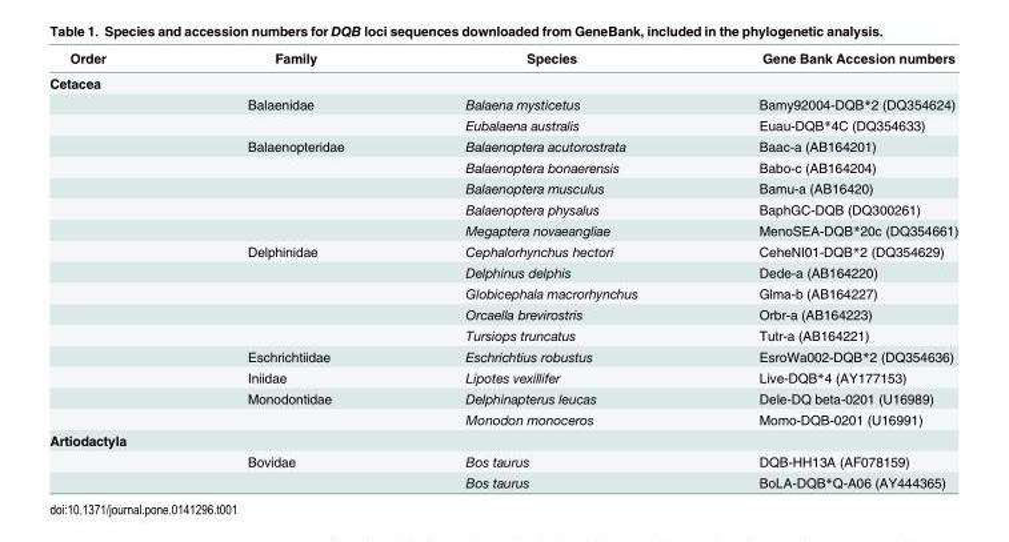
<table><thead><tr><td>Order</td><td>Family</td><td>Species</td><td>Gene Bank Accesion numbers</td></tr></thead><tbody><tr><td colspan="4">Cetacea</td></tr><tr><td></td><td>Balaenidae</td><td>Balaena mysticetus</td><td>Bamy92004-DQB*2 (DQ354624)</td></tr><tr><td></td><td></td><td>Eubalaena australis</td><td>Euau-DQB*4C (DQ354633)</td></tr><tr><td></td><td>Balaenopteridae</td><td>Balaenoptera acutorostrata</td><td>Baac-a (AB164201)</td></tr><tr><td></td><td></td><td>Balaenoptera bonaerensis</td><td>Babo-c (AB164204)</td></tr><tr><td></td><td></td><td>Balaenoptera musculus</td><td>Bamu-a (AB16420)</td></tr><tr><td></td><td></td><td>Balaenoptera physalus</td><td>BaphGC-DQB (DQ300261)</td></tr><tr><td></td><td></td><td>Megaptera novaeangliae</td><td>MenoSEA-DQB*20c (DQ354661)</td></tr><tr><td></td><td>Delphinidae</td><td>Cephalorhynchus hectori</td><td>CeheNI01-DQB*2 (DQ354629)</td></tr><tr><td></td><td></td><td>Delphinus delphis</td><td>Dede-a (AB164220)</td></tr><tr><td></td><td></td><td>Globicephala macrorhynchus</td><td>Glma-b (AB164227)</td></tr><tr><td></td><td></td><td>Orcaella brevirostris</td><td>Orbr-a (AB164223)</td></tr><tr><td></td><td></td><td>Tursiops truncatus</td><td>Tutr-a (AB164221)</td></tr><tr><td></td><td>Eschrichtiidae</td><td>Eschrichtius robustus</td><td>EsroWa002-DQB*2 (DQ354636)</td></tr><tr><td></td><td>Iniidae</td><td>Lipotes vexillifer</td><td>Live-DQB*4 (AY177153)</td></tr><tr><td></td><td>Monodontidae</td><td>Delphinapterus leucas</td><td>Dele-DQ beta-0201 (U16989)</td></tr><tr><td></td><td></td><td>Monodon monoceros</td><td>Momo-DQB-0201 (U16991)</td></tr><tr><td colspan="4">Artiodactyla</td></tr><tr><td></td><td>Bovidae</td><td>Bos taurus</td><td>DQB-HH13A (AF078159)</td></tr><tr><td></td><td></td><td>Bos taurus</td><td>BoLA-DQB*Q-A06 (AY444365)</td></tr></tbody></table>